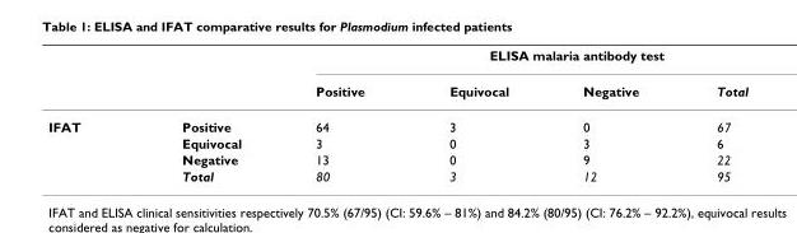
<table><thead><tr><td rowspan="2"></td><td rowspan="2"></td><td colspan="4">ELISA malaria antibody test</td></tr><tr><td>Positive</td><td>Equivocal</td><td>Negative</td><td>Total</td></tr></thead><tbody><tr><td rowspan="4">IFAT</td><td>Positive</td><td>64</td><td>3</td><td>0</td><td>67</td></tr><tr><td>Equivocal</td><td>3</td><td>0</td><td>3</td><td>6</td></tr><tr><td>Negative</td><td>13</td><td>0</td><td>9</td><td>22</td></tr><tr><td>Total</td><td>80</td><td>3</td><td>12</td><td>95</td></tr></tbody></table>